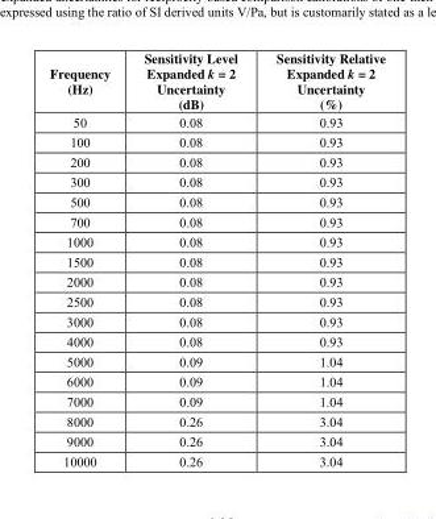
<table><thead><tr><td>Frequency (Hz)</td><td>Sensitivity Level Expanded k = 2 Uncertainty (dB)</td><td>Sensitivity Relative Expanded k = 2 Uncertainty (%)</td></tr></thead><tbody><tr><td>50</td><td>0.08</td><td>0.93</td></tr><tr><td>100</td><td>0.08</td><td>0.93</td></tr><tr><td>200</td><td>0.08</td><td>0.93</td></tr><tr><td>300</td><td>0.08</td><td>0.93</td></tr><tr><td>500</td><td>0.08</td><td>0.93</td></tr><tr><td>700</td><td>0.08</td><td>0.93</td></tr><tr><td>1000</td><td>0.08</td><td>0.93</td></tr><tr><td>1500</td><td>0.08</td><td>0.93</td></tr><tr><td>2000</td><td>0.08</td><td>0.93</td></tr><tr><td>2500</td><td>0.08</td><td>0.93</td></tr><tr><td>3000</td><td>0.08</td><td>0.93</td></tr><tr><td>4000</td><td>0.08</td><td>0.93</td></tr><tr><td>5000</td><td>0.09</td><td>1.04</td></tr><tr><td>6000</td><td>0.09</td><td>1.04</td></tr><tr><td>7000</td><td>0.09</td><td>1.04</td></tr><tr><td>8000</td><td>0.26</td><td>3.04</td></tr><tr><td>9000</td><td>0.26</td><td>3.04</td></tr><tr><td>10000</td><td>0.26</td><td>3.04</td></tr></tbody></table>